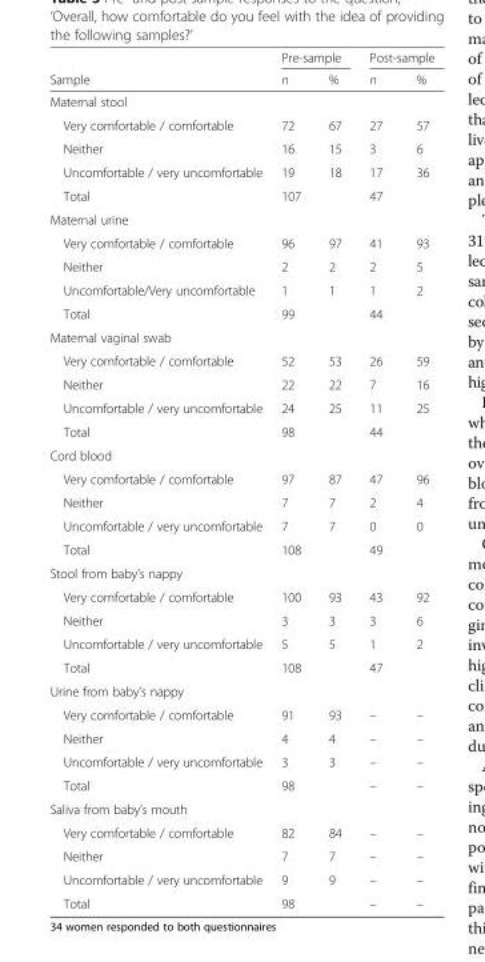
<table><thead><tr><td rowspan="2">Sample</td><td colspan="2">Pre-sample</td><td colspan="2">Post-sample</td></tr><tr><td>n</td><td>%</td><td>n</td><td>%</td></tr></thead><tbody><tr><td colspan="5">Maternal stool</td></tr><tr><td>Very comfortable / comfortable</td><td>72</td><td>67</td><td>27</td><td>57</td></tr><tr><td>Neither</td><td>16</td><td>15</td><td>3</td><td>6</td></tr><tr><td>Uncomfortable / very uncomfortable</td><td>19</td><td>18</td><td>17</td><td>36</td></tr><tr><td>Total</td><td>107</td><td></td><td>47</td><td></td></tr><tr><td colspan="5">Maternal urine</td></tr><tr><td>Very comfortable / comfortable</td><td>96</td><td>97</td><td>41</td><td>93</td></tr><tr><td>Neither</td><td>2</td><td>2</td><td>2</td><td>5</td></tr><tr><td>Uncomfortable/Very uncomfortable</td><td>1</td><td>1</td><td>1</td><td>2</td></tr><tr><td>Total</td><td>99</td><td></td><td>44</td><td></td></tr><tr><td colspan="5">Maternal vaginal swab</td></tr><tr><td>Very comfortable / comfortable</td><td>52</td><td>53</td><td>26</td><td>59</td></tr><tr><td>Neither</td><td>22</td><td>22</td><td>7</td><td>16</td></tr><tr><td>Uncomfortable / very uncomfortable</td><td>24</td><td>25</td><td>11</td><td>25</td></tr><tr><td>Total</td><td>98</td><td></td><td>44</td><td></td></tr><tr><td colspan="5">Cord blood</td></tr><tr><td>Very comfortable / comfortable</td><td>97</td><td>87</td><td>47</td><td>96</td></tr><tr><td>Neither</td><td>7</td><td>7</td><td>2</td><td>4</td></tr><tr><td>Uncomfortable / very uncomfortable</td><td>7</td><td>7</td><td>0</td><td>0</td></tr><tr><td>Total</td><td>108</td><td></td><td>49</td><td></td></tr><tr><td colspan="5">Stool from baby’s nappy</td></tr><tr><td>Very comfortable / comfortable</td><td>100</td><td>93</td><td>43</td><td>92</td></tr><tr><td>Neither</td><td>3</td><td>3</td><td>3</td><td>6</td></tr><tr><td>Uncomfortable / very uncomfortable</td><td>5</td><td>5</td><td>1</td><td>2</td></tr><tr><td>Total</td><td>108</td><td></td><td>47</td><td></td></tr><tr><td colspan="5">Urine from baby’s nappy</td></tr><tr><td>Very comfortable / comfortable</td><td>91</td><td>93</td><td>–</td><td>–</td></tr><tr><td>Neither</td><td>4</td><td>4</td><td>–</td><td>–</td></tr><tr><td>Uncomfortable / very uncomfortable</td><td>3</td><td>3</td><td>–</td><td>–</td></tr><tr><td>Total</td><td>98</td><td></td><td>–</td><td>–</td></tr><tr><td colspan="5">Saliva from baby’s mouth</td></tr><tr><td>Very comfortable / comfortable</td><td>82</td><td>84</td><td>–</td><td>–</td></tr><tr><td>Neither</td><td>7</td><td>7</td><td>–</td><td>–</td></tr><tr><td>Uncomfortable / very uncomfortable</td><td>9</td><td>9</td><td>–</td><td>–</td></tr><tr><td>Total</td><td>98</td><td></td><td>–</td><td>–</td></tr></tbody></table>